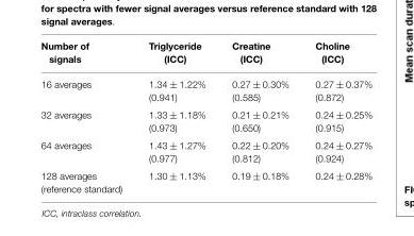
<table><thead><tr><td>Number of signals</td><td>Triglyceride (ICC)</td><td>Creatine (ICC)</td><td>Choline (ICC)</td></tr></thead><tbody><tr><td>16 averages</td><td>1.34 ± 1.22% (0.941)</td><td>0.27 ± 0.30% (0.585)</td><td>0.27 ± 0.37% (0.872)</td></tr><tr><td>32 averages</td><td>1.33 ± 1.18% (0.973)</td><td>0.21 ± 0.21% (0.650)</td><td>0.24 ± 0.25% (0.915)</td></tr><tr><td>64 averages</td><td>1.43 ± 1.27% (0.977)</td><td>0.22 ± 0.20% (0.812)</td><td>0.24 ± 0.27% (0.924)</td></tr><tr><td>128 averages (reference standard)</td><td>1.30 ± 1.13%</td><td>0.19 ± 0.18%</td><td>0.24 ± 0.28%</td></tr></tbody></table>